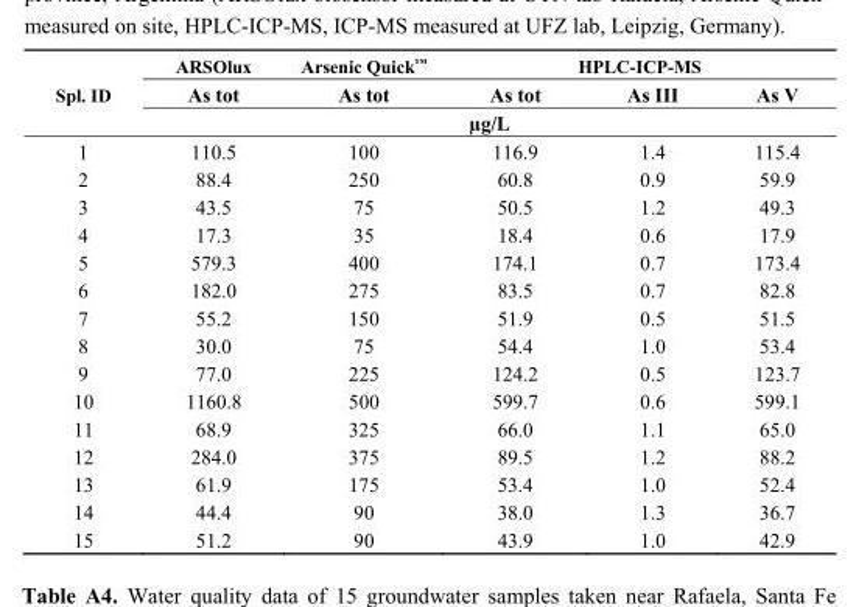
<table><thead><tr><td rowspan="3">Spl. ID</td><td rowspan="2">ARSOlux As tot</td><td rowspan="2">Arsenic Quick<sup>™</sup> As tot</td><td colspan="3">HPLC-ICP-MS</td></tr><tr><td>As tot</td><td>As III</td><td>As V</td></tr><tr><td colspan="5">µg/L</td></tr></thead><tbody><tr><td>1</td><td>110.5</td><td>100</td><td>116.9</td><td>1.4</td><td>115.4</td></tr><tr><td>2</td><td>88.4</td><td>250</td><td>60.8</td><td>0.9</td><td>59.9</td></tr><tr><td>3</td><td>43.5</td><td>75</td><td>50.5</td><td>1.2</td><td>49.3</td></tr><tr><td>4</td><td>17.3</td><td>35</td><td>18.4</td><td>0.6</td><td>17.9</td></tr><tr><td>5</td><td>579.3</td><td>400</td><td>174.1</td><td>0.7</td><td>173.4</td></tr><tr><td>6</td><td>182.0</td><td>275</td><td>83.5</td><td>0.7</td><td>82.8</td></tr><tr><td>7</td><td>55.2</td><td>150</td><td>51.9</td><td>0.5</td><td>51.5</td></tr><tr><td>8</td><td>30.0</td><td>75</td><td>54.4</td><td>1.0</td><td>53.4</td></tr><tr><td>9</td><td>77.0</td><td>225</td><td>124.2</td><td>0.5</td><td>123.7</td></tr><tr><td>10</td><td>1160.8</td><td>500</td><td>599.7</td><td>0.6</td><td>599.1</td></tr><tr><td>11</td><td>68.9</td><td>325</td><td>66.0</td><td>1.1</td><td>65.0</td></tr><tr><td>12</td><td>284.0</td><td>375</td><td>89.5</td><td>1.2</td><td>88.2</td></tr><tr><td>13</td><td>61.9</td><td>175</td><td>53.4</td><td>1.0</td><td>52.4</td></tr><tr><td>14</td><td>44.4</td><td>90</td><td>38.0</td><td>1.3</td><td>36.7</td></tr><tr><td>15</td><td>51.2</td><td>90</td><td>43.9</td><td>1.0</td><td>42.9</td></tr></tbody></table>